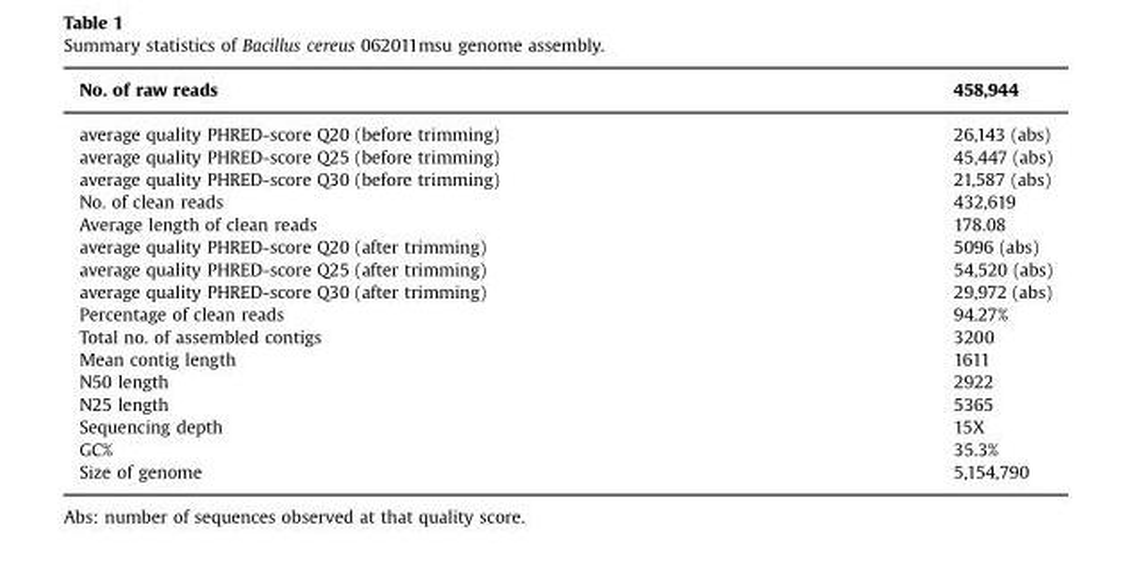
<table><thead><tr><td>No. of raw reads</td><td>458,944</td></tr></thead><tbody><tr><td>average quality PHRED-score Q20 (before trimming)</td><td>26,143 (abs)</td></tr><tr><td>average quality PHRED-score Q25 (before trimming)</td><td>45,447 (abs)</td></tr><tr><td>average quality PHRED-score Q30 (before trimming)</td><td>21,587 (abs)</td></tr><tr><td>No. of clean reads</td><td>432,619</td></tr><tr><td>Average length of clean reads</td><td>178.08</td></tr><tr><td>average quality PHRED-score Q20 (after trimming)</td><td>5096 (abs)</td></tr><tr><td>average quality PHRED-score Q25 (after trimming)</td><td>54,520 (abs)</td></tr><tr><td>average quality PHRED-score Q30 (after trimming)</td><td>29,972 (abs)</td></tr><tr><td>Percentage of clean reads</td><td>94.27%</td></tr><tr><td>Total no. of assembled contigs</td><td>3200</td></tr><tr><td>Mean contig length</td><td>1611</td></tr><tr><td>N50 length</td><td>2922</td></tr><tr><td>N25 length</td><td>5365</td></tr><tr><td>Sequencing depth</td><td>15X</td></tr><tr><td>GC%</td><td>35.3%</td></tr><tr><td>Size of genome</td><td>5,154,790</td></tr></tbody></table>